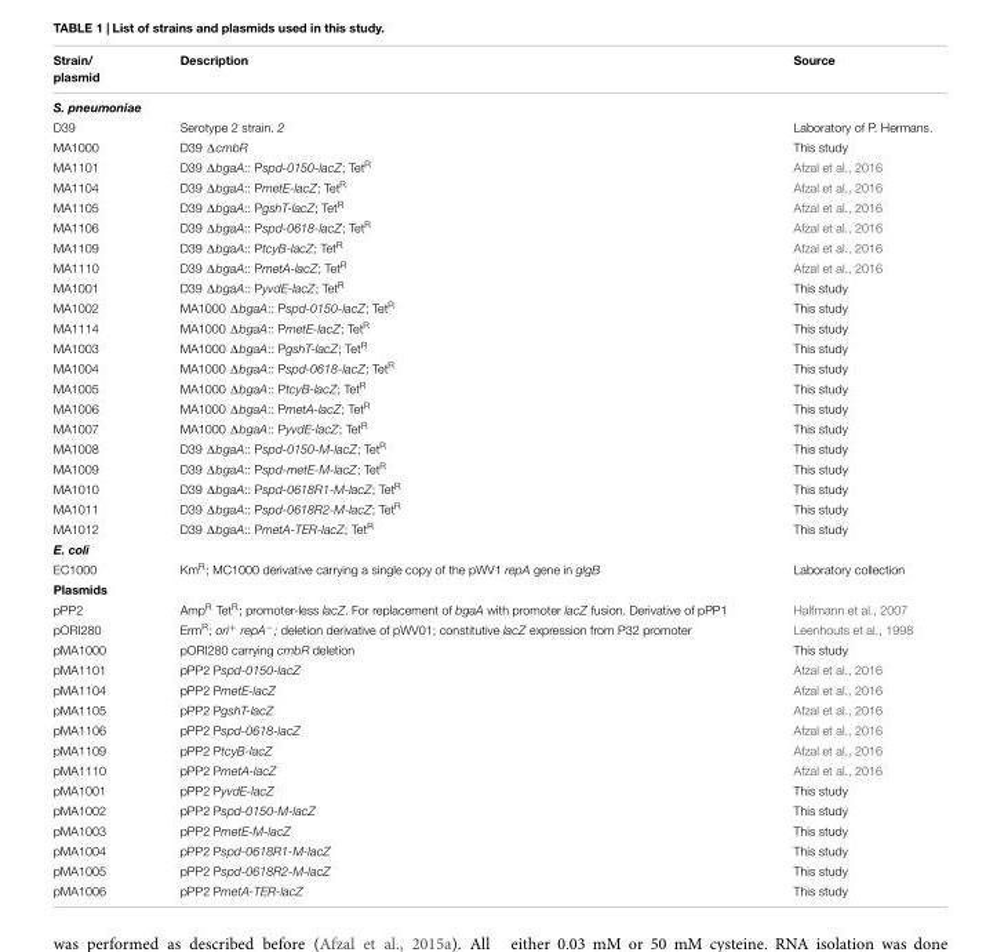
<table><thead><tr><td>Strain/ plasmid</td><td>Description</td><td>Source</td></tr></thead><tbody><tr><td colspan="3">S. pneumoniae</td></tr><tr><td>D39</td><td>Serotype 2 strain. 2</td><td>Laboratory of P. Hermans.</td></tr><tr><td>MA1000</td><td>D39 ΔcmbR</td><td>This study</td></tr><tr><td>MA1101</td><td>D39 ΔbgaA:: Pspd-0150-lacZ; Tet<sup>R</sup></td><td>Afzal et al., 2016</td></tr><tr><td>MA1104</td><td>D39 ΔbgaA:: PmetE-lacZ; Tet<sup>R</sup></td><td>Afzal et al., 2016</td></tr><tr><td>MA1105</td><td>D39 ΔbgaA:: PgshT-lacZ; Tet<sup>R</sup></td><td>Afzal et al., 2016</td></tr><tr><td>MA1106</td><td>D39 ΔbgaA:: Pspd-0618-lacZ; Tet<sup>R</sup></td><td>Afzal et al., 2016</td></tr><tr><td>MA1109</td><td>D39 ΔbgaA:: PtcyB-lacZ; Tet<sup>R</sup></td><td>Afzal et al., 2016</td></tr><tr><td>MA1110</td><td>D39 ΔbgaA:: PmetA-lacZ; Tet<sup>R</sup></td><td>Afzal et al., 2016</td></tr><tr><td>MA1001</td><td>D39 ΔbgaA:: PyvdE-lacZ; Tet<sup>R</sup></td><td>This study</td></tr><tr><td>MA1002</td><td>MA1000 ΔbgaA:: Pspd-0150-lacZ; Tet<sup>R</sup></td><td>This study</td></tr><tr><td>MA1114</td><td>MA1000 ΔbgaA:: PmetE-lacZ; Tet<sup>R</sup></td><td>This study</td></tr><tr><td>MA1003</td><td>MA1000 ΔbgaA:: PgshT-lacZ; Tet<sup>R</sup></td><td>This study</td></tr><tr><td>MA1004</td><td>MA1000 ΔbgaA:: Pspd-0618-lacZ; Tet<sup>R</sup></td><td>This study</td></tr><tr><td>MA1005</td><td>MA1000 ΔbgaA:: PtcyB-lacZ; Tet<sup>R</sup></td><td>This study</td></tr><tr><td>MA1006</td><td>MA1000 ΔbgaA:: PmetA-lacZ; Tet<sup>R</sup></td><td>This study</td></tr><tr><td>MA1007</td><td>MA1000 ΔbgaA:: PyvdE-lacZ; Tet<sup>R</sup></td><td>This study</td></tr><tr><td>MA1008</td><td>D39 ΔbgaA:: Pspd-0150-M-lacZ; Tet<sup>R</sup></td><td>This study</td></tr><tr><td>MA1009</td><td>D39 ΔbgaA:: Pspd-metE-M-lacZ; Tet<sup>R</sup></td><td>This study</td></tr><tr><td>MA1010</td><td>D39 ΔbgaA:: Pspd-0618R1-M-lacZ; Tet<sup>R</sup></td><td>This study</td></tr><tr><td>MA1011</td><td>D39 ΔbgaA:: Pspd-0618R2-M-lacZ; Tet<sup>R</sup></td><td>This study</td></tr><tr><td>MA1012</td><td>D39 ΔbgaA:: PmetA-TER-lacZ; Tet<sup>R</sup></td><td>This study</td></tr><tr><td colspan="3">E. coli</td></tr><tr><td>EC1000</td><td>Km<sup>R</sup>; MC1000 derivative carrying a single copy of the pWV1 repA gene in glgB</td><td>Laboratory collection</td></tr><tr><td colspan="3">Plasmids</td></tr><tr><td>pPP2</td><td>Amp<sup>R</sup> Tet<sup>R</sup>; promoter-less lacZ. For replacement of bgaA with promoter lacZ fusion. Derivative of pPP1</td><td>Halfmann et al., 2007</td></tr><tr><td>pORI280</td><td>Erm<sup>R</sup>; ori<sup>+</sup> repA<sup>−</sup>; deletion derivative of pWV01; constitutive lacZ expression from P32 promoter</td><td>Leenhouts et al., 1998</td></tr><tr><td>pMA1000</td><td>pORI280 carrying cmbR deletion</td><td>This study</td></tr><tr><td>pMA1101</td><td>pPP2 Pspd-0150-lacZ</td><td>Afzal et al., 2016</td></tr><tr><td>pMA1104</td><td>pPP2 PmetE-lacZ</td><td>Afzal et al., 2016</td></tr><tr><td>pMA1105</td><td>pPP2 PgshT-lacZ</td><td>Afzal et al., 2016</td></tr><tr><td>pMA1106</td><td>pPP2 Pspd-0618-lacZ</td><td>Afzal et al., 2016</td></tr><tr><td>pMA1109</td><td>pPP2 PtcyB-lacZ</td><td>Afzal et al., 2016</td></tr><tr><td>pMA1110</td><td>pPP2 PmetA-lacZ</td><td>Afzal et al., 2016</td></tr><tr><td>pMA1001</td><td>pPP2 PyvdE-lacZ</td><td>This study</td></tr><tr><td>pMA1002</td><td>pPP2 Pspd-0150-M-lacZ</td><td>This study</td></tr><tr><td>pMA1003</td><td>pPP2 PmetE-M-lacZ</td><td>This study</td></tr><tr><td>pMA1004</td><td>pPP2 Pspd-0618R1-M-lacZ</td><td>This study</td></tr><tr><td>pMA1005</td><td>pPP2 Pspd-0618R2-M-lacZ</td><td>This study</td></tr><tr><td>pMA1006</td><td>pPP2 PmetA-TER-lacZ</td><td>This study</td></tr></tbody></table>